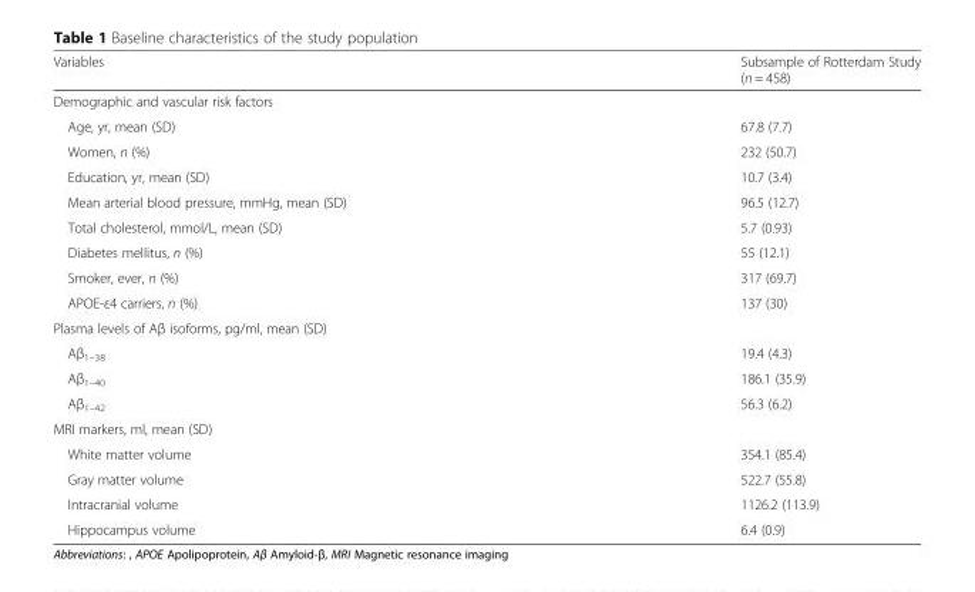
<table><thead><tr><td>Variables</td><td>Subsample of Rotterdam Study (n = 458)</td></tr></thead><tbody><tr><td colspan="2">Demographic and vascular risk factors</td></tr><tr><td>Age, yr, mean (SD)</td><td>67.8 (7.7)</td></tr><tr><td>Women, n (%)</td><td>232 (50.7)</td></tr><tr><td>Education, yr, mean (SD)</td><td>10.7 (3.4)</td></tr><tr><td>Mean arterial blood pressure, mmHg, mean (SD)</td><td>96.5 (12.7)</td></tr><tr><td>Total cholesterol, mmol/L, mean (SD)</td><td>5.7 (0.93)</td></tr><tr><td>Diabetes mellitus, n (%)</td><td>55 (12.1)</td></tr><tr><td>Smoker, ever, n (%)</td><td>317 (69.7)</td></tr><tr><td>APOE-ε4 carriers, n (%)</td><td>137 (30)</td></tr><tr><td colspan="2">Plasma levels of Aβ isoforms, pg/ml, mean (SD)</td></tr><tr><td>Aβ<sub>1–38</sub></td><td>19.4 (4.3)</td></tr><tr><td>Aβ<sub>1–40</sub></td><td>186.1 (35.9)</td></tr><tr><td>Aβ<sub>1–42</sub></td><td>56.3 (6.2)</td></tr><tr><td colspan="2">MRI markers, ml, mean (SD)</td></tr><tr><td>White matter volume</td><td>354.1 (85.4)</td></tr><tr><td>Gray matter volume</td><td>522.7 (55.8)</td></tr><tr><td>Intracranial volume</td><td>1126.2 (113.9)</td></tr><tr><td>Hippocampus volume</td><td>6.4 (0.9)</td></tr></tbody></table>